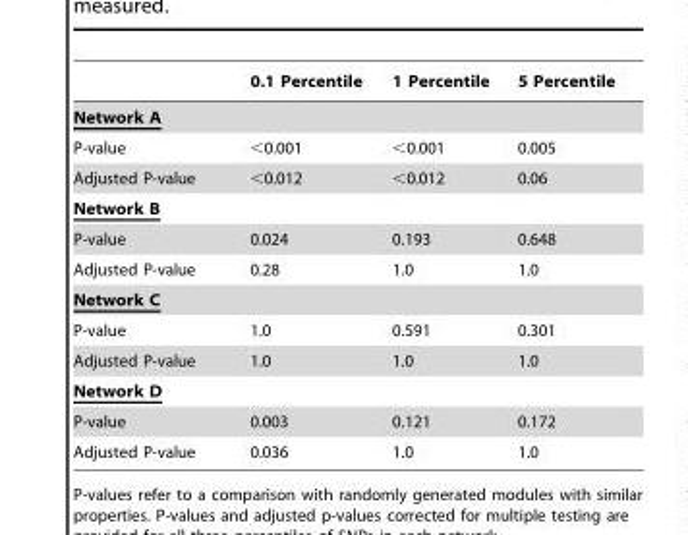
<table><thead><tr><td></td><td>0.1 Percentile</td><td>1 Percentile</td><td>5 Percentile</td></tr></thead><tbody><tr><td colspan="4">Network A</td></tr><tr><td>P-value</td><td>&lt;0.001</td><td>&lt;0.001</td><td>0.005</td></tr><tr><td>Adjusted P-value</td><td>&lt;0.012</td><td>&lt;0.012</td><td>0.06</td></tr><tr><td colspan="4">Network B</td></tr><tr><td>P-value</td><td>0.024</td><td>0.193</td><td>0.648</td></tr><tr><td>Adjusted P-value</td><td>0.28</td><td>1.0</td><td>1.0</td></tr><tr><td colspan="4">Network C</td></tr><tr><td>P-value</td><td>1.0</td><td>0.591</td><td>0.301</td></tr><tr><td>Adjusted P-value</td><td>1.0</td><td>1.0</td><td>1.0</td></tr><tr><td colspan="4">Network D</td></tr><tr><td>P-value</td><td>0.003</td><td>0.121</td><td>0.172</td></tr><tr><td>Adjusted P-value</td><td>0.036</td><td>1.0</td><td>1.0</td></tr></tbody></table>